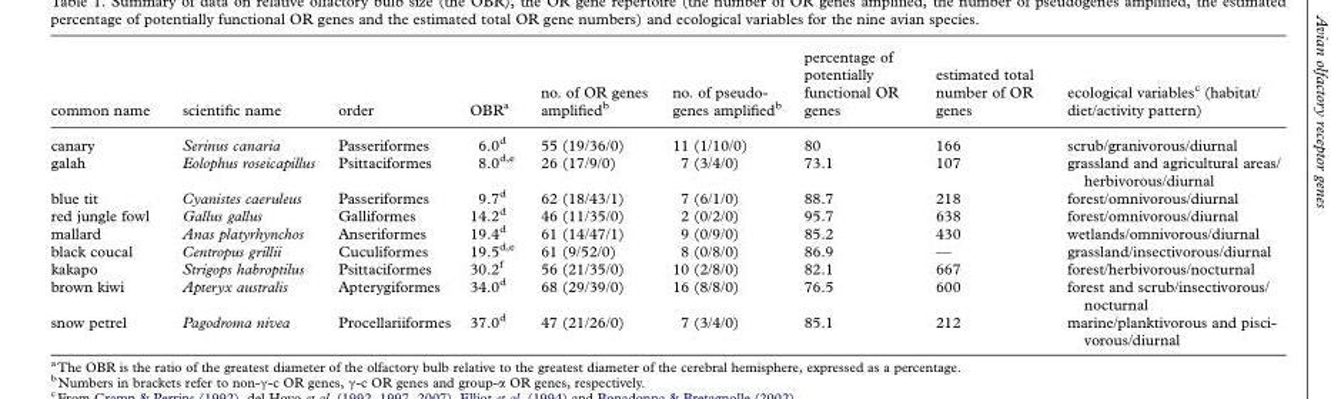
<table><thead><tr><td>common name</td><td>scientific name</td><td>order</td><td>OBRa</td><td>no. of OR genes amplifiedb</td><td>no. of pseudo- genes amplifiedb</td><td>percentage of potentially functional OR genes</td><td>estimated total number of OR genes</td><td>ecological variablesc (habitat/ diet/activity pattern)</td></tr></thead><tbody><tr><td>canary</td><td>Serinus canaria</td><td>Passeriformes</td><td>6.0d</td><td>55 (19/36/0)</td><td>11 (1/10/0)</td><td>80</td><td>166</td><td>scrub/granivorous/diurnal</td></tr><tr><td>galah</td><td>Eolophus roseicapillus</td><td>Psittaciformes</td><td>8.0d,e</td><td>26 (17/9/0)</td><td>7 (3/4/0)</td><td>73.1</td><td>107</td><td>grassland and agricultural areas/ herbivorous/diurnal</td></tr><tr><td>blue tit</td><td>Cyanistes caeruleus</td><td>Passeriformes</td><td>9.7d</td><td>62 (18/43/1)</td><td>7 (6/1/0)</td><td>88.7</td><td>218</td><td>forest/omnivorous/diurnal</td></tr><tr><td>red jungle fowl</td><td>Gallus gallus</td><td>Galliformes</td><td>14.2d</td><td>46 (11/35/0)</td><td>2 (0/2/0)</td><td>95.7</td><td>638</td><td>forest/omnivorous/diurnal</td></tr><tr><td>mallard</td><td>Anas platyrhynchos</td><td>Anseriformes</td><td>19.4d</td><td>61 (14/47/1)</td><td>9 (0/9/0)</td><td>85.2</td><td>430</td><td>wetlands/omnivorous/diurnal</td></tr><tr><td>black coucal</td><td>Centropus grillii</td><td>Cuculiformes</td><td>19.5d,e</td><td>61 (9/52/0)</td><td>8 (0/8/0)</td><td>86.9</td><td>—</td><td>grassland/insectivorous/diurnal</td></tr><tr><td>kakapo</td><td>Strigops habroptilus</td><td>Psittaciformes</td><td>30.2f</td><td>56 (21/35/0)</td><td>10 (2/8/0)</td><td>82.1</td><td>667</td><td>forest/herbivorous/nocturnal</td></tr><tr><td>brown kiwi</td><td>Apteryx australis</td><td>Apterygiformes</td><td>34.0d</td><td>68 (29/39/0)</td><td>16 (8/8/0)</td><td>76.5</td><td>600</td><td>forest and scrub/insectivorous/ nocturnal</td></tr><tr><td>snow petrel</td><td>Pagodroma nivea</td><td>Procellariiformes</td><td>37.0d</td><td>47 (21/26/0)</td><td>7 (3/4/0)</td><td>85.1</td><td>212</td><td>marine/planktivorous and pisci- vorous/diurnal</td></tr></tbody></table>